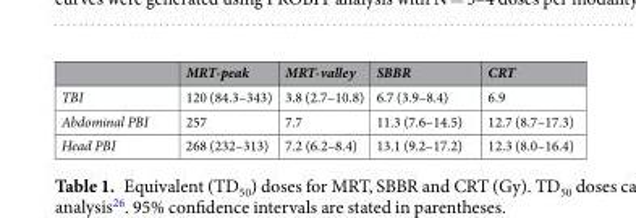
<table><thead><tr><td></td><td>MRT-peak</td><td>MRT-valley</td><td>SBBR</td><td>CRT</td></tr></thead><tbody><tr><td>TBI</td><td>120 (84.3–343)</td><td>3.8 (2.7–10.8)</td><td>6.7 (3.9–8.4)</td><td>6.9</td></tr><tr><td>Abdominal PBI</td><td>257</td><td>7.7</td><td>11.3 (7.6–14.5)</td><td>12.7 (8.7–17.3)</td></tr><tr><td>Head PBI</td><td>268 (232–313)</td><td>7.2 (6.2–8.4)</td><td>13.1 (9.2–17.2)</td><td>12.3 (8.0–16.4)</td></tr></tbody></table>